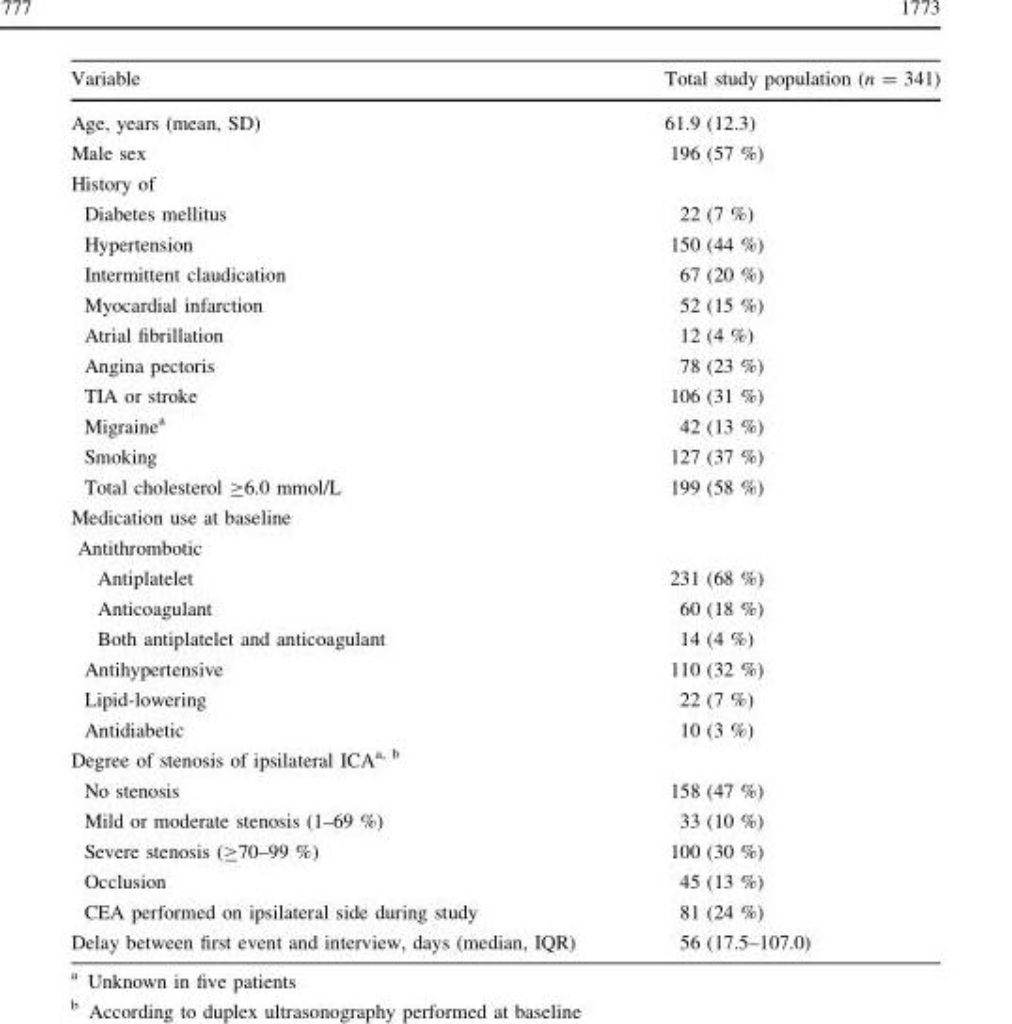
<table><thead><tr><td>Variable</td><td>Total study population (n = 341)</td></tr></thead><tbody><tr><td>Age, years (mean, SD)</td><td>61.9 (12.3)</td></tr><tr><td>Male sex</td><td>196 (57 %)</td></tr><tr><td colspan="2">History of</td></tr><tr><td>Diabetes mellitus</td><td>22 (7 %)</td></tr><tr><td>Hypertension</td><td>150 (44 %)</td></tr><tr><td>Intermittent claudication</td><td>67 (20 %)</td></tr><tr><td>Myocardial infarction</td><td>52 (15 %)</td></tr><tr><td>Atrial fibrillation</td><td>12 (4 %)</td></tr><tr><td>Angina pectoris</td><td>78 (23 %)</td></tr><tr><td>TIA or stroke</td><td>106 (31 %)</td></tr><tr><td>Migraine<sup>a</sup></td><td>42 (13 %)</td></tr><tr><td>Smoking</td><td>127 (37 %)</td></tr><tr><td>Total cholesterol ≥6.0 mmol/L</td><td>199 (58 %)</td></tr><tr><td colspan="2">Medication use at baseline</td></tr><tr><td colspan="2">Antithrombotic</td></tr><tr><td>Antiplatelet</td><td>231 (68 %)</td></tr><tr><td>Anticoagulant</td><td>60 (18 %)</td></tr><tr><td>Both antiplatelet and anticoagulant</td><td>14 (4 %)</td></tr><tr><td>Antihypertensive</td><td>110 (32 %)</td></tr><tr><td>Lipid-lowering</td><td>22 (7 %)</td></tr><tr><td>Antidiabetic</td><td>10 (3 %)</td></tr><tr><td colspan="2">Degree of stenosis of ipsilateral ICA<sup>a, b</sup></td></tr><tr><td>No stenosis</td><td>158 (47 %)</td></tr><tr><td>Mild or moderate stenosis (1–69 %)</td><td>33 (10 %)</td></tr><tr><td>Severe stenosis (≥70–99 %)</td><td>100 (30 %)</td></tr><tr><td>Occlusion</td><td>45 (13 %)</td></tr><tr><td>CEA performed on ipsilateral side during study</td><td>81 (24 %)</td></tr><tr><td>Delay between first event and interview, days (median, IQR)</td><td>56 (17.5–107.0)</td></tr></tbody></table>